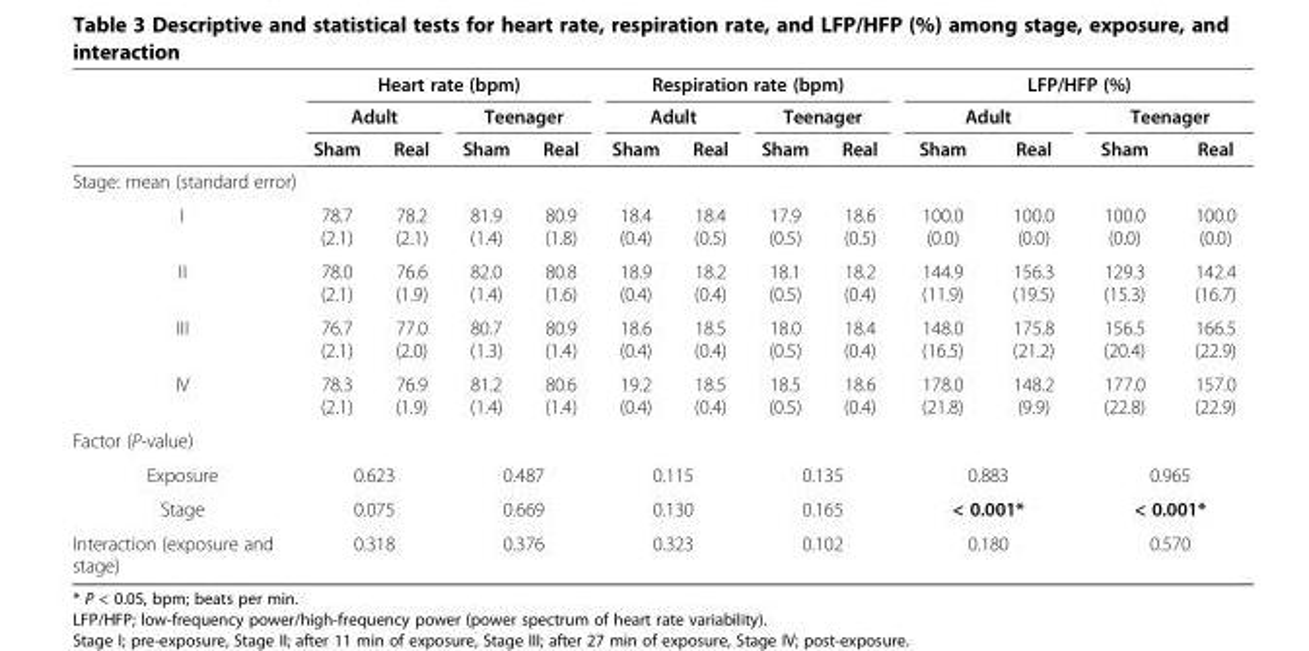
<table><thead><tr><td rowspan="3"></td><td colspan="4">Heart rate (bpm)</td><td colspan="4">Respiration rate (bpm)</td><td colspan="4">LFP/HFP (%)</td></tr><tr><td colspan="2">Adult</td><td colspan="2">Teenager</td><td colspan="2">Adult</td><td colspan="2">Teenager</td><td colspan="2">Adult</td><td colspan="2">Teenager</td></tr><tr><td>Sham</td><td>Real</td><td>Sham</td><td>Real</td><td>Sham</td><td>Real</td><td>Sham</td><td>Real</td><td>Sham</td><td>Real</td><td>Sham</td><td>Real</td></tr></thead><tbody><tr><td colspan="13">Stage: mean (standard error)</td></tr><tr><td>I</td><td>78.7 (2.1)</td><td>78.2 (2.1)</td><td>81.9 (1.4)</td><td>80.9 (1.8)</td><td>18.4 (0.4)</td><td>18.4 (0.5)</td><td>17.9 (0.5)</td><td>18.6 (0.5)</td><td>100.0 (0.0)</td><td>100.0 (0.0)</td><td>100.0 (0.0)</td><td>100.0 (0.0)</td></tr><tr><td>II</td><td>78.0 (2.1)</td><td>76.6 (1.9)</td><td>82.0 (1.4)</td><td>80.8 (1.6)</td><td>18.9 (0.4)</td><td>18.2 (0.4)</td><td>18.1 (0.5)</td><td>18.2 (0.4)</td><td>144.9 (11.9)</td><td>156.3 (19.5)</td><td>129.3 (15.3)</td><td>142.4 (16.7)</td></tr><tr><td>III</td><td>76.7 (2.1)</td><td>77.0 (2.0)</td><td>80.7 (1.3)</td><td>80.9 (1.4)</td><td>18.6 (0.4)</td><td>18.5 (0.4)</td><td>18.0 (0.5)</td><td>18.4 (0.4)</td><td>148.0 (16.5)</td><td>175.8 (21.2)</td><td>156.5 (20.4)</td><td>166.5 (22.9)</td></tr><tr><td>IV</td><td>78.3 (2.1)</td><td>76.9 (1.9)</td><td>81.2 (1.4)</td><td>80.6 (1.4)</td><td>19.2 (0.4)</td><td>18.5 (0.4)</td><td>18.5 (0.5)</td><td>18.6 (0.4)</td><td>178.0 (21.8)</td><td>148.2 (9.9)</td><td>177.0 (22.8)</td><td>157.0 (22.9)</td></tr><tr><td colspan="13">Factor (P-value)</td></tr><tr><td>Exposure</td><td colspan="2">0.623</td><td colspan="2">0.487</td><td colspan="2">0.115</td><td colspan="2">0.135</td><td colspan="2">0.883</td><td colspan="2">0.965</td></tr><tr><td>Stage</td><td colspan="2">0.075</td><td colspan="2">0.669</td><td colspan="2">0.130</td><td colspan="2">0.165</td><td colspan="2">&lt; 0.001*</td><td colspan="2">&lt; 0.001*</td></tr><tr><td>Interaction (exposure and stage)</td><td colspan="2">0.318</td><td colspan="2">0.376</td><td colspan="2">0.323</td><td colspan="2">0.102</td><td colspan="2">0.180</td><td colspan="2">0.570</td></tr></tbody></table>